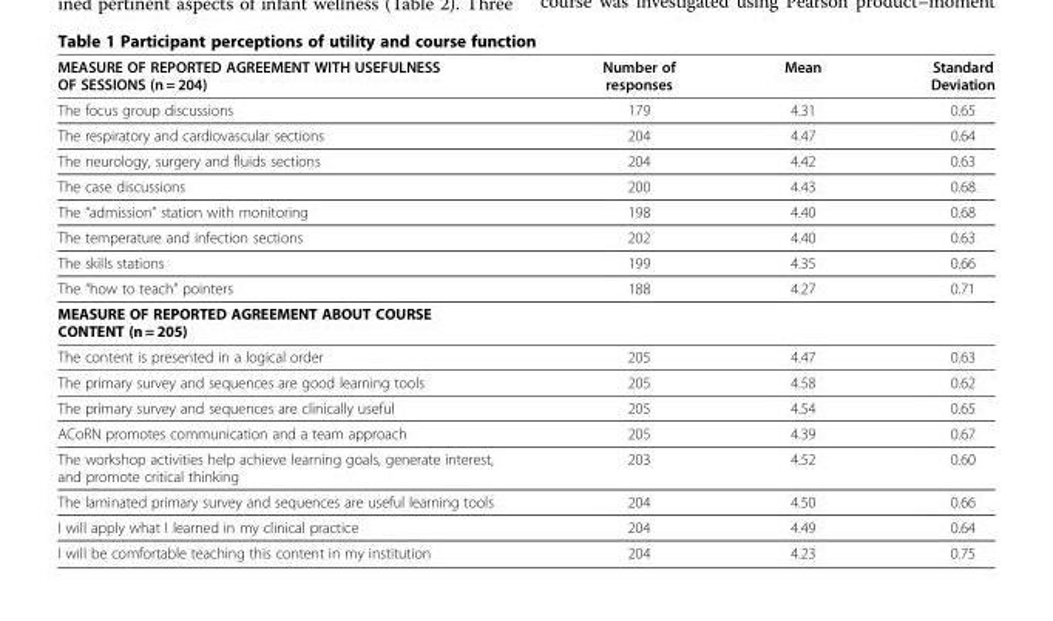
<table><thead><tr><td>MEASURE OF REPORTED AGREEMENT WITH USEFULNESS OF SESSIONS (n = 204)</td><td>Number of responses</td><td>Mean</td><td>Standard Deviation</td></tr></thead><tbody><tr><td>The focus group discussions</td><td>179</td><td>4.31</td><td>0.65</td></tr><tr><td>The respiratory and cardiovascular sections</td><td>204</td><td>4.47</td><td>0.64</td></tr><tr><td>The neurology, surgery and fluids sections</td><td>204</td><td>4.42</td><td>0.63</td></tr><tr><td>The case discussions</td><td>200</td><td>4.43</td><td>0.68</td></tr><tr><td>The “admission” station with monitoring</td><td>198</td><td>4.40</td><td>0.68</td></tr><tr><td>The temperature and infection sections</td><td>202</td><td>4.40</td><td>0.63</td></tr><tr><td>The skills stations</td><td>199</td><td>4.35</td><td>0.66</td></tr><tr><td>The “how to teach” pointers</td><td>188</td><td>4.27</td><td>0.71</td></tr><tr><td colspan="4">MEASURE OF REPORTED AGREEMENT ABOUT COURSE CONTENT (n = 205)</td></tr><tr><td>The content is presented in a logical order</td><td>205</td><td>4.47</td><td>0.63</td></tr><tr><td>The primary survey and sequences are good learning tools</td><td>205</td><td>4.58</td><td>0.62</td></tr><tr><td>The primary survey and sequences are clinically useful</td><td>205</td><td>4.54</td><td>0.65</td></tr><tr><td>ACoRN promotes communication and a team approach</td><td>205</td><td>4.39</td><td>0.67</td></tr><tr><td>The workshop activities help achieve learning goals, generate interest, and promote critical thinking</td><td>203</td><td>4.52</td><td>0.60</td></tr><tr><td>The laminated primary survey and sequences are useful learning tools</td><td>204</td><td>4.50</td><td>0.66</td></tr><tr><td>I will apply what I learned in my clinical practice</td><td>204</td><td>4.49</td><td>0.64</td></tr><tr><td>I will be comfortable teaching this content in my institution</td><td>204</td><td>4.23</td><td>0.75</td></tr></tbody></table>